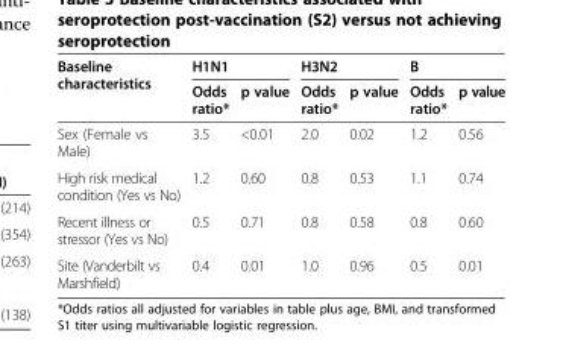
<table><thead><tr><td rowspan="2">Baseline characteristics</td><td colspan="2">H1N1</td><td colspan="2">H3N2</td><td colspan="2">B</td></tr><tr><td>Odds ratio*</td><td>p value</td><td>Odds ratio*</td><td>p value</td><td>Odds ratio*</td><td>p value</td></tr></thead><tbody><tr><td>Sex (Female vs Male)</td><td>3.5</td><td>&lt;0.01</td><td>2.0</td><td>0.02</td><td>1.2</td><td>0.56</td></tr><tr><td>High risk medical condition (Yes vs No)</td><td>1.2</td><td>0.60</td><td>0.8</td><td>0.53</td><td>1.1</td><td>0.74</td></tr><tr><td>Recent illness or stressor (Yes vs No)</td><td>0.5</td><td>0.71</td><td>0.8</td><td>0.58</td><td>0.8</td><td>0.60</td></tr><tr><td>Site (Vanderbilt vs Marshfield)</td><td>0.4</td><td>0.01</td><td>1.0</td><td>0.96</td><td>0.5</td><td>0.01</td></tr></tbody></table>